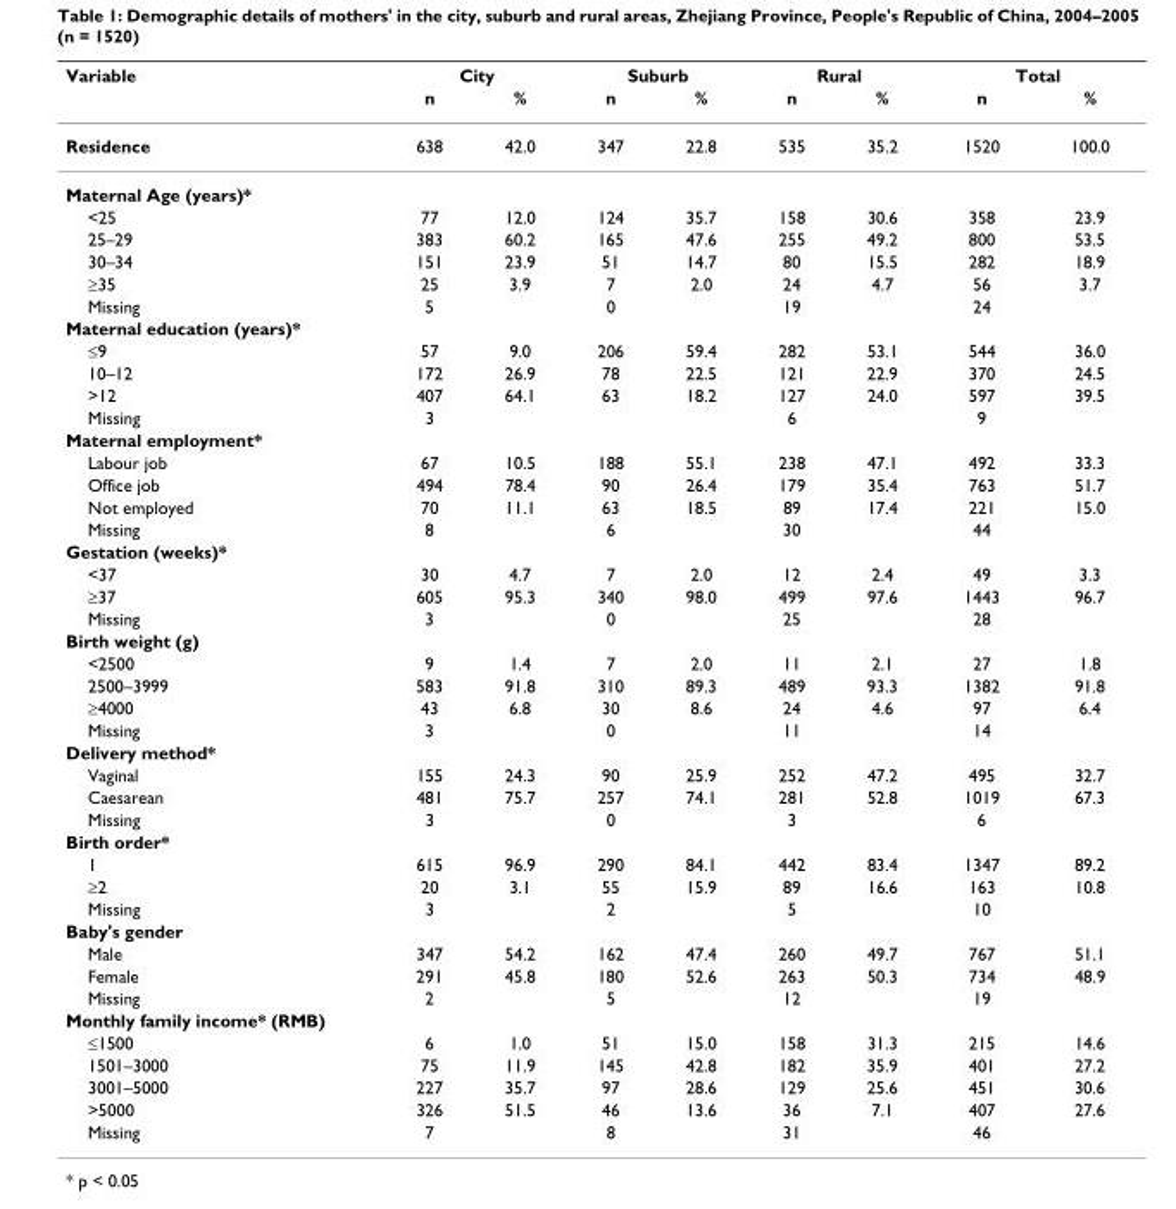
<table><thead><tr><td rowspan="2">Variable</td><td colspan="2">City</td><td colspan="2">Suburb</td><td colspan="2">Rural</td><td colspan="2">Total</td></tr><tr><td>n</td><td>%</td><td>n</td><td>%</td><td>n</td><td>%</td><td>n</td><td>%</td></tr></thead><tbody><tr><td>Residence</td><td>638</td><td>42.0</td><td>347</td><td>22.8</td><td>535</td><td>35.2</td><td>1520</td><td>100.0</td></tr><tr><td colspan="9">Maternal Age (years)*</td></tr><tr><td>&lt;25</td><td>77</td><td>12.0</td><td>124</td><td>35.7</td><td>158</td><td>30.6</td><td>358</td><td>23.9</td></tr><tr><td>25–29</td><td>383</td><td>60.2</td><td>165</td><td>47.6</td><td>255</td><td>49.2</td><td>800</td><td>53.5</td></tr><tr><td>30–34</td><td>151</td><td>23.9</td><td>51</td><td>14.7</td><td>80</td><td>15.5</td><td>282</td><td>18.9</td></tr><tr><td>≥35</td><td>25</td><td>3.9</td><td>7</td><td>2.0</td><td>24</td><td>4.7</td><td>56</td><td>3.7</td></tr><tr><td>Missing</td><td>5</td><td></td><td>0</td><td></td><td>19</td><td></td><td>24</td><td></td></tr><tr><td colspan="9">Maternal education (years)*</td></tr><tr><td>≤9</td><td>57</td><td>9.0</td><td>206</td><td>59.4</td><td>282</td><td>53.1</td><td>544</td><td>36.0</td></tr><tr><td>10–12</td><td>172</td><td>26.9</td><td>78</td><td>22.5</td><td>121</td><td>22.9</td><td>370</td><td>24.5</td></tr><tr><td>&gt;12</td><td>407</td><td>64.1</td><td>63</td><td>18.2</td><td>127</td><td>24.0</td><td>597</td><td>39.5</td></tr><tr><td>Missing</td><td>3</td><td></td><td></td><td></td><td>6</td><td></td><td>9</td><td></td></tr><tr><td colspan="9">Maternal employment*</td></tr><tr><td>Labour job</td><td>67</td><td>10.5</td><td>188</td><td>55.1</td><td>238</td><td>47.1</td><td>492</td><td>33.3</td></tr><tr><td>Office job</td><td>494</td><td>78.4</td><td>90</td><td>26.4</td><td>179</td><td>35.4</td><td>763</td><td>51.7</td></tr><tr><td>Not employed</td><td>70</td><td>11.1</td><td>63</td><td>18.5</td><td>89</td><td>17.4</td><td>221</td><td>15.0</td></tr><tr><td>Missing</td><td>8</td><td></td><td>6</td><td></td><td>30</td><td></td><td>44</td><td></td></tr><tr><td colspan="9">Gestation (weeks)*</td></tr><tr><td>&lt;37</td><td>30</td><td>4.7</td><td>7</td><td>2.0</td><td>12</td><td>2.4</td><td>49</td><td>3.3</td></tr><tr><td>≥37</td><td>605</td><td>95.3</td><td>340</td><td>98.0</td><td>499</td><td>97.6</td><td>1443</td><td>96.7</td></tr><tr><td>Missing</td><td>3</td><td></td><td>0</td><td></td><td>25</td><td></td><td>28</td><td></td></tr><tr><td colspan="9">Birth weight (g)</td></tr><tr><td>&lt;2500</td><td>9</td><td>1.4</td><td>7</td><td>2.0</td><td>11</td><td>2.1</td><td>27</td><td>1.8</td></tr><tr><td>2500–3999</td><td>583</td><td>91.8</td><td>310</td><td>89.3</td><td>489</td><td>93.3</td><td>1382</td><td>91.8</td></tr><tr><td>≥4000</td><td>43</td><td>6.8</td><td>30</td><td>8.6</td><td>24</td><td>4.6</td><td>97</td><td>6.4</td></tr><tr><td>Missing</td><td>3</td><td></td><td>0</td><td></td><td>11</td><td></td><td>14</td><td></td></tr><tr><td colspan="9">Delivery method*</td></tr><tr><td>Vaginal</td><td>155</td><td>24.3</td><td>90</td><td>25.9</td><td>252</td><td>47.2</td><td>495</td><td>32.7</td></tr><tr><td>Caesarean</td><td>481</td><td>75.7</td><td>257</td><td>74.1</td><td>281</td><td>52.8</td><td>1019</td><td>67.3</td></tr><tr><td>Missing</td><td>3</td><td></td><td>0</td><td></td><td>3</td><td></td><td>6</td><td></td></tr><tr><td colspan="9">Birth order*</td></tr><tr><td>1</td><td>615</td><td>96.9</td><td>290</td><td>84.1</td><td>442</td><td>83.4</td><td>1347</td><td>89.2</td></tr><tr><td>≥2</td><td>20</td><td>3.1</td><td>55</td><td>15.9</td><td>89</td><td>16.6</td><td>163</td><td>10.8</td></tr><tr><td>Missing</td><td>3</td><td></td><td>2</td><td></td><td>5</td><td></td><td>10</td><td></td></tr><tr><td colspan="9">Baby&#x27;s gender</td></tr><tr><td>Male</td><td>347</td><td>54.2</td><td>162</td><td>47.4</td><td>260</td><td>49.7</td><td>767</td><td>51.1</td></tr><tr><td>Female</td><td>291</td><td>45.8</td><td>180</td><td>52.6</td><td>263</td><td>50.3</td><td>734</td><td>48.9</td></tr><tr><td>Missing</td><td>2</td><td></td><td>5</td><td></td><td>12</td><td></td><td>19</td><td></td></tr><tr><td colspan="9">Monthly family income* (RMB)</td></tr><tr><td>≤1500</td><td>6</td><td>1.0</td><td>51</td><td>15.0</td><td>158</td><td>31.3</td><td>215</td><td>14.6</td></tr><tr><td>1501–3000</td><td>75</td><td>11.9</td><td>145</td><td>42.8</td><td>182</td><td>35.9</td><td>401</td><td>27.2</td></tr><tr><td>3001–5000</td><td>227</td><td>35.7</td><td>97</td><td>28.6</td><td>129</td><td>25.6</td><td>451</td><td>30.6</td></tr><tr><td>&gt;5000</td><td>326</td><td>51.5</td><td>46</td><td>13.6</td><td>36</td><td>7.1</td><td>407</td><td>27.6</td></tr><tr><td>Missing</td><td>7</td><td></td><td>8</td><td></td><td>31</td><td></td><td>46</td><td></td></tr></tbody></table>